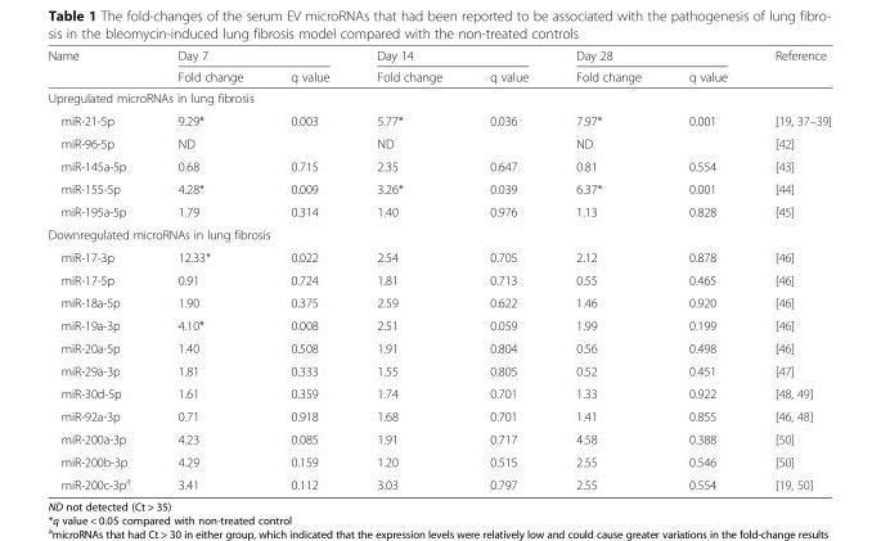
<table><thead><tr><td rowspan="2">Name</td><td colspan="2">Day 7</td><td colspan="2">Day 14</td><td colspan="2">Day 28</td><td rowspan="2">Reference</td></tr><tr><td>Fold change</td><td>q value</td><td>Fold change</td><td>q value</td><td>Fold change</td><td>q value</td></tr></thead><tbody><tr><td colspan="8">Upregulated microRNAs in lung fibrosis</td></tr><tr><td>miR-21-5p</td><td>9.29*</td><td>0.003</td><td>5.77*</td><td>0.036</td><td>7.97*</td><td>0.001</td><td>[19, 37–39]</td></tr><tr><td>miR-96-5p</td><td>ND</td><td></td><td>ND</td><td></td><td>ND</td><td></td><td>[42]</td></tr><tr><td>miR-145a-5p</td><td>0.68</td><td>0.715</td><td>2.35</td><td>0.647</td><td>0.81</td><td>0.554</td><td>[43]</td></tr><tr><td>miR-155-5p</td><td>4.28*</td><td>0.009</td><td>3.26*</td><td>0.039</td><td>6.37*</td><td>0.001</td><td>[44]</td></tr><tr><td>miR-195a-5p</td><td>1.79</td><td>0.314</td><td>1.40</td><td>0.976</td><td>1.13</td><td>0.828</td><td>[45]</td></tr><tr><td colspan="8">Downregulated microRNAs in lung fibrosis</td></tr><tr><td>miR-17-3p</td><td>12.33*</td><td>0.022</td><td>2.54</td><td>0.705</td><td>2.12</td><td>0.878</td><td>[46]</td></tr><tr><td>miR-17-5p</td><td>0.91</td><td>0.724</td><td>1.81</td><td>0.713</td><td>0.55</td><td>0.465</td><td>[46]</td></tr><tr><td>miR-18a-5p</td><td>1.90</td><td>0.375</td><td>2.59</td><td>0.622</td><td>1.46</td><td>0.920</td><td>[46]</td></tr><tr><td>miR-19a-3p</td><td>4.10*</td><td>0.008</td><td>2.51</td><td>0.059</td><td>1.99</td><td>0.199</td><td>[46]</td></tr><tr><td>miR-20a-5p</td><td>1.40</td><td>0.508</td><td>1.91</td><td>0.804</td><td>0.56</td><td>0.498</td><td>[46]</td></tr><tr><td>miR-29a-3p</td><td>1.81</td><td>0.333</td><td>1.55</td><td>0.805</td><td>0.52</td><td>0.451</td><td>[47]</td></tr><tr><td>miR-30d-5p</td><td>1.61</td><td>0.359</td><td>1.74</td><td>0.701</td><td>1.33</td><td>0.922</td><td>[48, 49]</td></tr><tr><td>miR-92a-3p</td><td>0.71</td><td>0.918</td><td>1.68</td><td>0.701</td><td>1.41</td><td>0.855</td><td>[46, 48]</td></tr><tr><td>miR-200a-3p</td><td>4.23</td><td>0.085</td><td>1.91</td><td>0.717</td><td>4.58</td><td>0.388</td><td>[50]</td></tr><tr><td>miR-200b-3p</td><td>4.29</td><td>0.159</td><td>1.20</td><td>0.515</td><td>2.55</td><td>0.546</td><td>[50]</td></tr><tr><td>miR-200c-3p<sup>a</sup></td><td>3.41</td><td>0.112</td><td>3.03</td><td>0.797</td><td>2.55</td><td>0.554</td><td>[19, 50]</td></tr></tbody></table>